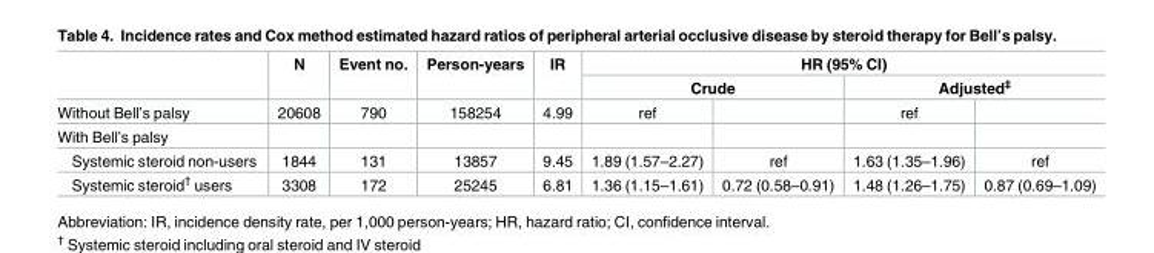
<table><thead><tr><td rowspan="3">Without Bell’s palsy</td><td rowspan="3">N 20608</td><td rowspan="3">Event no. 790</td><td rowspan="3">Person-years 158254</td><td rowspan="3">IR 4.99</td><td colspan="4">HR (95% CI)</td></tr><tr><td colspan="2">Crude</td><td colspan="2">Adjusted<sup>‡</sup></td></tr><tr><td>ref</td><td></td><td>ref</td><td></td></tr></thead><tbody><tr><td colspan="9">With Bell’s palsy</td></tr><tr><td>Systemic steroid non-users</td><td>1844</td><td>131</td><td>13857</td><td>9.45</td><td>1.89 (1.57–2.27)</td><td>ref</td><td>1.63 (1.35–1.96)</td><td>ref</td></tr><tr><td>Systemic steroid<sup>†</sup> users</td><td>3308</td><td>172</td><td>25245</td><td>6.81</td><td>1.36 (1.15–1.61)</td><td>0.72 (0.58–0.91)</td><td>1.48 (1.26–1.75)</td><td>0.87 (0.69–1.09)</td></tr></tbody></table>